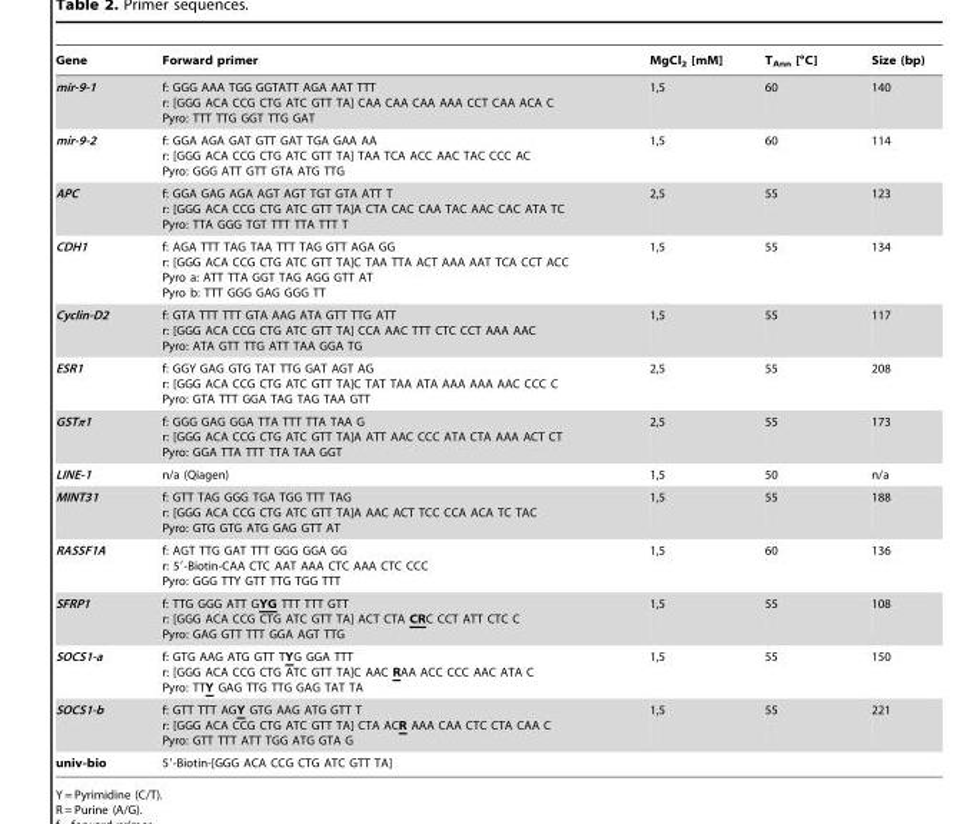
<table><thead><tr><td>Gene</td><td>Forward primer</td><td>MgCl<sub>2</sub> [mM]</td><td>T<sub>Ann</sub> [°C]</td><td>Size (bp)</td></tr></thead><tbody><tr><td>mir-9-1</td><td>f: GGG AAA TGG GGTATT AGA AAT TTT r: [GGG ACA CCG CTG ATC GTT TA] CAA CAA CAA AAA CCT CAA ACA C Pyro: TTT TTG GGT TTG GAT</td><td>1,5</td><td>60</td><td>140</td></tr><tr><td>mir-9-2</td><td>f: GGA AGA GAT GTT GAT TGA GAA AA r: [GGG ACA CCG CTG ATC GTT TA] TAA TCA ACC AAC TAC CCC AC Pyro: GGG ATT GTT GTA ATG TTG</td><td>1,5</td><td>60</td><td>114</td></tr><tr><td>APC</td><td>f: GGA GAG AGA AGT AGT TGT GTA ATT T r: [GGG ACA CCG CTG ATC GTT TA]A CTA CAC CAA TAC AAC CAC ATA TC Pyro: TTA GGG TGT TTT TTA TTT T</td><td>2,5</td><td>55</td><td>123</td></tr><tr><td>CDH1</td><td>f: AGA TTT TAG TAA TTT TAG GTT AGA GG r: [GGG ACA CCG CTG ATC GTT TA]C TAA TTA ACT AAA AAT TCA CCT ACC Pyro a: ATT TTA GGT TAG AGG GTT AT Pyro b: TTT GGG GAG GGG TT</td><td>1,5</td><td>55</td><td>134</td></tr><tr><td>Cyclin-D2</td><td>f: GTA TTT TTT GTA AAG ATA GTT TTG ATT r: [GGG ACA CCG CTG ATC GTT TA] CCA AAC TTT CTC CCT AAA AAC Pyro: ATA GTT TTG ATT TAA GGA TG</td><td>1,5</td><td>55</td><td>117</td></tr><tr><td>ESR1</td><td>f: GGY GAG GTG TAT TTG GAT AGT AG r: [GGG ACA CCG CTG ATC GTT TA]C TAT TAA ATA AAA AAA AAC CCC C Pyro: GTA TTT GGA TAG TAG TAA GTT</td><td>2,5</td><td>55</td><td>208</td></tr><tr><td>GSTπ1</td><td>f: GGG GAG GGA TTA TTT TTA TAA G r: [GGG ACA CCG CTG ATC GTT TA]A ATT AAC CCC ATA CTA AAA ACT CT Pyro: GGA TTA TTT TTA TAA GGT</td><td>2,5</td><td>55</td><td>173</td></tr><tr><td>LINE-1</td><td>n/a (Qiagen)</td><td>1,5</td><td>50</td><td>n/a</td></tr><tr><td>MINT31</td><td>f: GTT TAG GGG TGA TGG TTT TAG r: [GGG ACA CCG CTG ATC GTT TA]A AAC ACT TCC CCA ACA TC TAC Pyro: GTG GTG ATG GAG GTT AT</td><td>1,5</td><td>55</td><td>188</td></tr><tr><td>RASSF1A</td><td>f: AGT TTG GAT TTT GGG GGA GG r: 5′-Biotin-CAA CTC AAT AAA CTC AAA CTC CCC Pyro: GGG TTY GTT TTG TGG TTT</td><td>1,5</td><td>60</td><td>136</td></tr><tr><td>SFRP1</td><td>f: TTG GGG ATT GYG TTT TTT GTT r: [GGG ACA CCG CTG ATC GTT TA] ACT CTA CRC CCT ATT CTC C Pyro: GAG GTT TTT GGA AGT TTG</td><td>1,5</td><td>55</td><td>108</td></tr><tr><td>SOCS1-a</td><td>f: GTG AAG ATG GTT TYG GGA TTT r: [GGG ACA CCG CTG ATC GTT TA]C AAC RAA ACC CCC AAC ATA C Pyro: TTY GAG TTG TTG GAG TAT TA</td><td>1,5</td><td>55</td><td>150</td></tr><tr><td>SOCS1-b</td><td>f: GTT TTT AGY GTG AAG ATG GTT T r: [GGG ACA CCG CTG ATC GTT TA] CTA ACR AAA CAA CTC CTA CAA C Pyro: GTT TTT ATT TGG ATG GTA G</td><td>1,5</td><td>55</td><td>221</td></tr><tr><td>univ-bio</td><td>5′-Biotin-[GGG ACA CCG CTG ATC GTT TA]</td><td></td><td></td><td></td></tr></tbody></table>